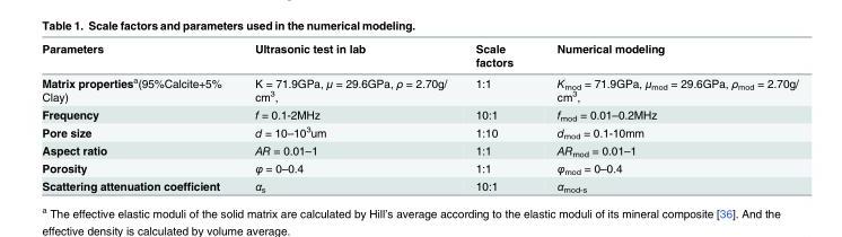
<table><thead><tr><td>Parameters</td><td>Ultrasonic test in lab</td><td>Scale factors</td><td>Numerical modeling</td></tr></thead><tbody><tr><td>Matrix properties<sup>a</sup>(95%Calcite+5% Clay)</td><td>K = 71.9GPa, μ = 29.6GPa, ρ = 2.70g/ cm<sup>3</sup>,</td><td>1:1</td><td>K<sub>mod</sub> = 71.9GPa, μ<sub>mod</sub> = 29.6GPa, ρ<sub>mod</sub> = 2.70g/ cm<sup>3</sup>,</td></tr><tr><td>Frequency</td><td>f = 0.1-2MHz</td><td>10:1</td><td>f<sub>mod</sub> = 0.01–0.2MHz</td></tr><tr><td>Pore size</td><td>d = 10–10<sup>3</sup>um</td><td>1:10</td><td>d<sub>mod</sub> = 0.1-10mm</td></tr><tr><td>Aspect ratio</td><td>AR = 0.01–1</td><td>1:1</td><td>AR<sub>mod</sub> = 0.01–1</td></tr><tr><td>Porosity</td><td>φ = 0–0.4</td><td>1:1</td><td>φ<sub>mod</sub> = 0–0.4</td></tr><tr><td>Scattering attenuation coefficient</td><td>α<sub>s</sub></td><td>10:1</td><td>α<sub>mod-s</sub></td></tr></tbody></table>